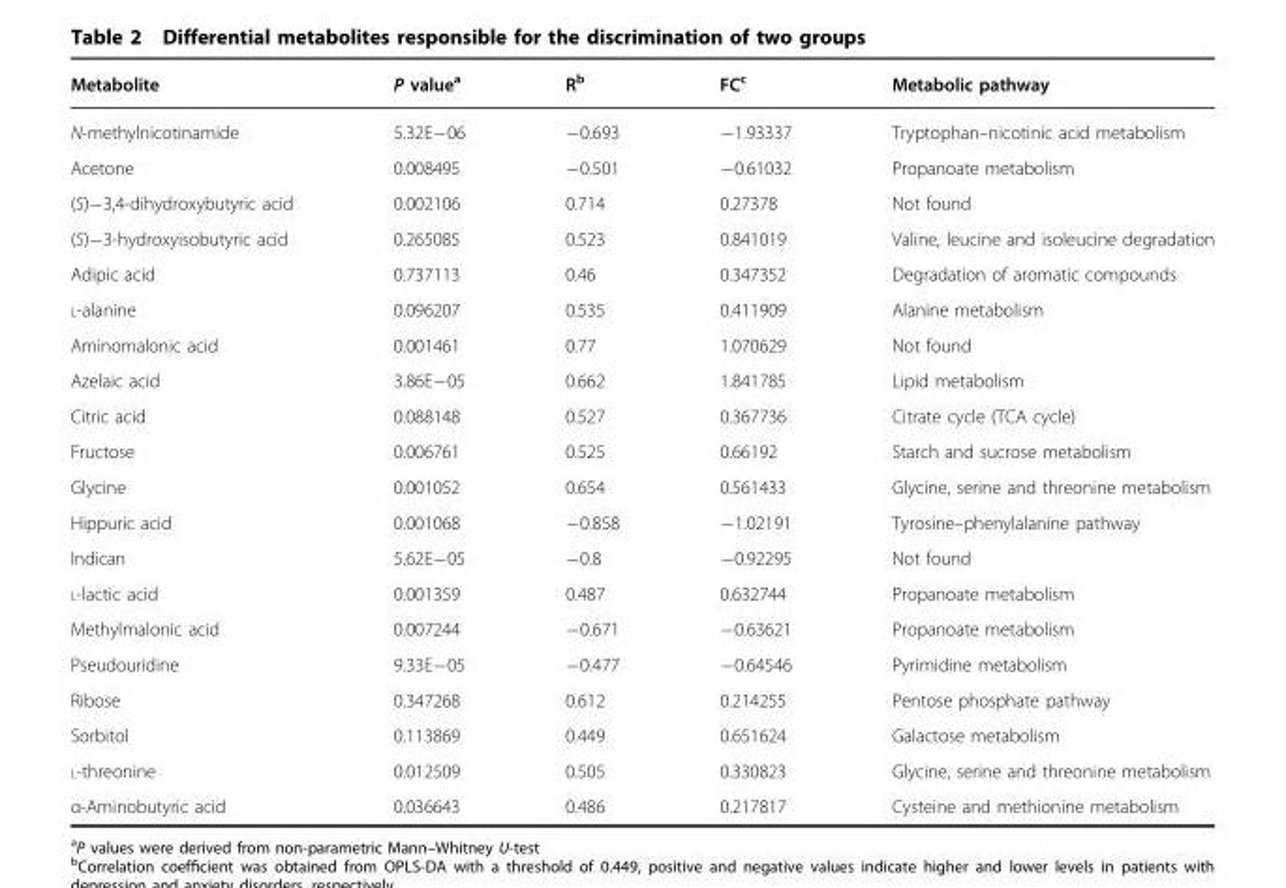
<table><thead><tr><td>Metabolite</td><td>P value<sup>a</sup></td><td>R<sup>b</sup></td><td>FC<sup>c</sup></td><td>Metabolic pathway</td></tr></thead><tbody><tr><td>N-methylnicotinamide</td><td>5.32E−06</td><td>−0.693</td><td>−1.93337</td><td>Tryptophan–nicotinic acid metabolism</td></tr><tr><td>Acetone</td><td>0.008495</td><td>−0.501</td><td>−0.61032</td><td>Propanoate metabolism</td></tr><tr><td>(S)−3,4-dihydroxybutyric acid</td><td>0.002106</td><td>0.714</td><td>0.27378</td><td>Not found</td></tr><tr><td>(S)−3-hydroxyisobutyric acid</td><td>0.265085</td><td>0.523</td><td>0.841019</td><td>Valine, leucine and isoleucine degradation</td></tr><tr><td>Adipic acid</td><td>0.737113</td><td>0.46</td><td>0.347352</td><td>Degradation of aromatic compounds</td></tr><tr><td>L-alanine</td><td>0.096207</td><td>0.535</td><td>0.411909</td><td>Alanine metabolism</td></tr><tr><td>Aminomalonic acid</td><td>0.001461</td><td>0.77</td><td>1.070629</td><td>Not found</td></tr><tr><td>Azelaic acid</td><td>3.86E−05</td><td>0.662</td><td>1.841785</td><td>Lipid metabolism</td></tr><tr><td>Citric acid</td><td>0.088148</td><td>0.527</td><td>0.367736</td><td>Citrate cycle (TCA cycle)</td></tr><tr><td>Fructose</td><td>0.006761</td><td>0.525</td><td>0.66192</td><td>Starch and sucrose metabolism</td></tr><tr><td>Glycine</td><td>0.001052</td><td>0.654</td><td>0.561433</td><td>Glycine, serine and threonine metabolism</td></tr><tr><td>Hippuric acid</td><td>0.001068</td><td>−0.858</td><td>−1.02191</td><td>Tyrosine–phenylalanine pathway</td></tr><tr><td>Indican</td><td>5.62E−05</td><td>−0.8</td><td>−0.92295</td><td>Not found</td></tr><tr><td>L-lactic acid</td><td>0.001359</td><td>0.487</td><td>0.632744</td><td>Propanoate metabolism</td></tr><tr><td>Methylmalonic acid</td><td>0.007244</td><td>−0.671</td><td>−0.63621</td><td>Propanoate metabolism</td></tr><tr><td>Pseudouridine</td><td>9.33E−05</td><td>−0.477</td><td>−0.64546</td><td>Pyrimidine metabolism</td></tr><tr><td>Ribose</td><td>0.347268</td><td>0.612</td><td>0.214255</td><td>Pentose phosphate pathway</td></tr><tr><td>Sorbitol</td><td>0.113869</td><td>0.449</td><td>0.651624</td><td>Galactose metabolism</td></tr><tr><td>L-threonine</td><td>0.012509</td><td>0.505</td><td>0.330823</td><td>Glycine, serine and threonine metabolism</td></tr><tr><td>α-Aminobutyric acid</td><td>0.036643</td><td>0.486</td><td>0.217817</td><td>Cysteine and methionine metabolism</td></tr></tbody></table>